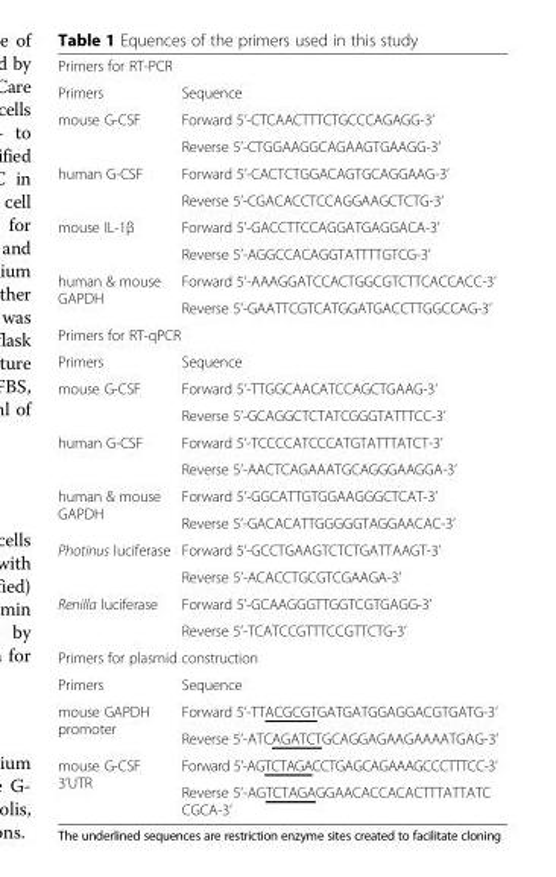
<table><tbody><tr><td colspan="2">Primers for RT-PCR</td></tr><tr><td>Primers</td><td>Sequence</td></tr><tr><td rowspan="2">mouse G-CSF</td><td>Forward 5’-CTCAACTTTCTGCCCAGAGG-3’</td></tr><tr><td>Reverse 5’-CTGGAAGGCAGAAGTGAAGG-3’</td></tr><tr><td rowspan="2">human G-CSF</td><td>Forward 5’-CACTCTGGACAGTGCAGGAAG-3’</td></tr><tr><td>Reverse 5’-CGACACCTCCAGGAAGCTCTG-3’</td></tr><tr><td rowspan="2">mouse IL-1β</td><td>Forward 5’-GACCTTCCAGGATGAGGACA-3’</td></tr><tr><td>Reverse 5’-AGGCCACAGGTATTTTGTCG-3’</td></tr><tr><td rowspan="2">human &amp; mouse GAPDH</td><td>Forward 5’-AAAGGATCCACTGGCGTCTTCACCACC-3’</td></tr><tr><td>Reverse 5’-GAATTCGTCATGGATGACCTTGGCCAG-3’</td></tr><tr><td colspan="2">Primers for RT-qPCR</td></tr><tr><td>Primers</td><td>Sequence</td></tr><tr><td rowspan="2">mouse G-CSF</td><td>Forward 5’-TTGGCAACATCCAGCTGAAG-3’</td></tr><tr><td>Reverse 5’-GCAGGCTCTATCGGGTATTTCC-3’</td></tr><tr><td rowspan="2">human G-CSF</td><td>Forward 5’-TCCCCATCCCATGTATTTATCT-3’</td></tr><tr><td>Reverse 5’-AACTCAGAAATGCAGGGAAGGA-3’</td></tr><tr><td rowspan="2">human &amp; mouse GAPDH</td><td>Forward 5’-GGCATTGTGGAAGGGCTCAT-3’</td></tr><tr><td>Reverse 5’-GACACATTGGGGGTAGGAACAC-3’</td></tr><tr><td rowspan="2">Photinus luciferase</td><td>Forward 5’-GCCTGAAGTCTCTGATTAAGT-3’</td></tr><tr><td>Reverse 5’-ACACCTGCGTCGAAGA-3’</td></tr><tr><td rowspan="2">Renilla luciferase</td><td>Forward 5’-GCAAGGGTTGGTCGTGAGG-3’</td></tr><tr><td>Reverse 5’-TCATCCGTTTCCGTTCTG-3’</td></tr><tr><td colspan="2">Primers for plasmid construction</td></tr><tr><td>Primers</td><td>Sequence</td></tr><tr><td rowspan="2">mouse GAPDH promoter</td><td>Forward 5’-TTACGCGTGATGATGGAGGACGTGATG-3’</td></tr><tr><td>Reverse 5’-ATCAGATCTGCAGGAGAAGAAAATGAG-3’</td></tr><tr><td rowspan="2">mouse G-CSF 3’UTR</td><td>Forward 5’-AGTCTAGACCTGAGCAGAAAGCCCTTTCC-3’</td></tr><tr><td>Reverse 5’-AGTCTAGAGGAACACCACACTTTATTATC CGCA-3’</td></tr></tbody></table>